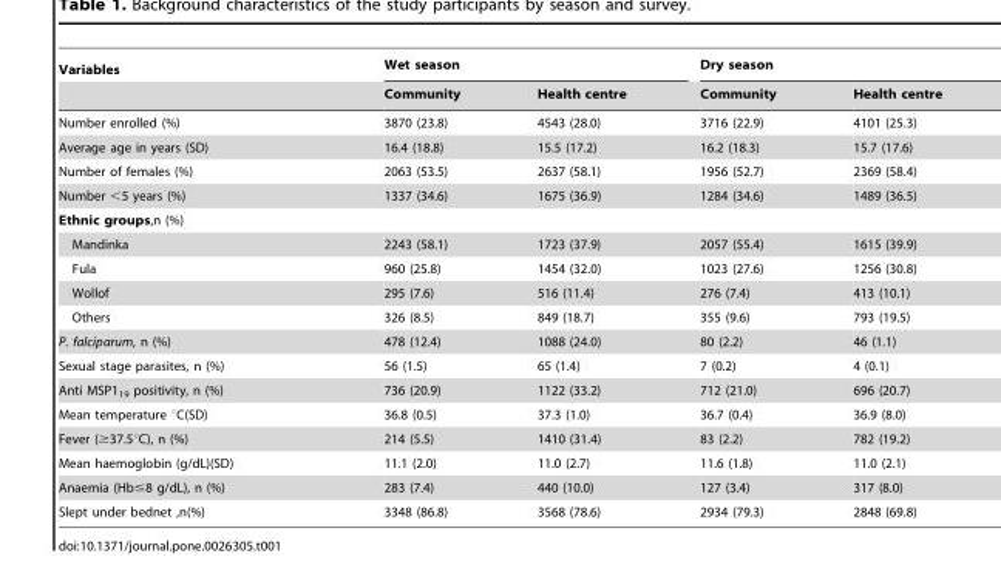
<table><thead><tr><td rowspan="2">Variables</td><td colspan="2">Wet season</td><td colspan="2">Dry season</td></tr><tr><td>Community</td><td>Health centre</td><td>Community</td><td>Health centre</td></tr></thead><tbody><tr><td>Number enrolled (%)</td><td>3870 (23.8)</td><td>4543 (28.0)</td><td>3716 (22.9)</td><td>4101 (25.3)</td></tr><tr><td>Average age in years (SD)</td><td>16.4 (18.8)</td><td>15.5 (17.2)</td><td>16.2 (18.3)</td><td>15.7 (17.6)</td></tr><tr><td>Number of females (%)</td><td>2063 (53.5)</td><td>2637 (58.1)</td><td>1956 (52.7)</td><td>2369 (58.4)</td></tr><tr><td>Number &lt;5 years (%)</td><td>1337 (34.6)</td><td>1675 (36.9)</td><td>1284 (34.6)</td><td>1489 (36.5)</td></tr><tr><td colspan="5">Ethnic groups,n (%)</td></tr><tr><td>Mandinka</td><td>2243 (58.1)</td><td>1723 (37.9)</td><td>2057 (55.4)</td><td>1615 (39.9)</td></tr><tr><td>Fula</td><td>960 (25.8)</td><td>1454 (32.0)</td><td>1023 (27.6)</td><td>1256 (30.8)</td></tr><tr><td>Wollof</td><td>295 (7.6)</td><td>516 (11.4)</td><td>276 (7.4)</td><td>413 (10.1)</td></tr><tr><td>Others</td><td>326 (8.5)</td><td>849 (18.7)</td><td>355 (9.6)</td><td>793 (19.5)</td></tr><tr><td>P. falciparum, n (%)</td><td>478 (12.4)</td><td>1088 (24.0)</td><td>80 (2.2)</td><td>46 (1.1)</td></tr><tr><td>Sexual stage parasites, n (%)</td><td>56 (1.5)</td><td>65 (1.4)</td><td>7 (0.2)</td><td>4 (0.1)</td></tr><tr><td>Anti MSP1<sub>19</sub> positivity, n (%)</td><td>736 (20.9)</td><td>1122 (33.2)</td><td>712 (21.0)</td><td>696 (20.7)</td></tr><tr><td>Mean temperature °C(SD)</td><td>36.8 (0.5)</td><td>37.3 (1.0)</td><td>36.7 (0.4)</td><td>36.9 (8.0)</td></tr><tr><td>Fever (≥37.5°C), n (%)</td><td>214 (5.5)</td><td>1410 (31.4)</td><td>83 (2.2)</td><td>782 (19.2)</td></tr><tr><td>Mean haemoglobin (g/dL)(SD)</td><td>11.1 (2.0)</td><td>11.0 (2.7)</td><td>11.6 (1.8)</td><td>11.0 (2.1)</td></tr><tr><td>Anaemia (Hb≤8 g/dL), n (%)</td><td>283 (7.4)</td><td>440 (10.0)</td><td>127 (3.4)</td><td>317 (8.0)</td></tr><tr><td>Slept under bednet ,n(%)</td><td>3348 (86.8)</td><td>3568 (78.6)</td><td>2934 (79.3)</td><td>2848 (69.8)</td></tr></tbody></table>